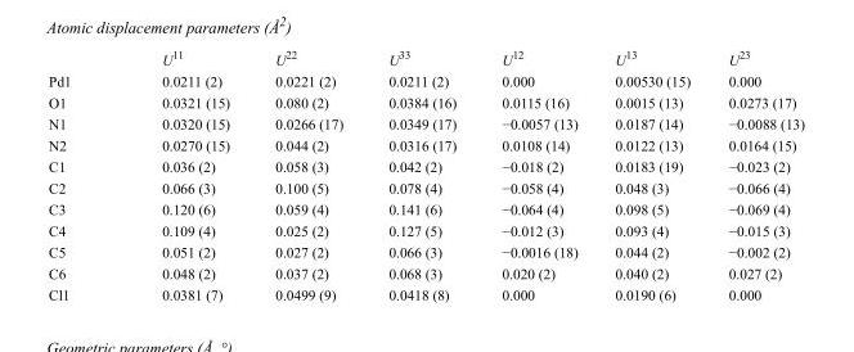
<table><thead><tr><td></td><td>U<sup>11</sup></td><td>U<sup>22</sup></td><td>U<sup>33</sup></td><td>U<sup>12</sup></td><td>U<sup>13</sup></td><td>U<sup>23</sup></td></tr></thead><tbody><tr><td>Pd1</td><td>0.0211 (2)</td><td>0.0221 (2)</td><td>0.0211 (2)</td><td>0.000</td><td>0.00530 (15)</td><td>0.000</td></tr><tr><td>O1</td><td>0.0321 (15)</td><td>0.080 (2)</td><td>0.0384 (16)</td><td>0.0115 (16)</td><td>0.0015 (13)</td><td>0.0273 (17)</td></tr><tr><td>N1</td><td>0.0320 (15)</td><td>0.0266 (17)</td><td>0.0349 (17)</td><td>−0.0057 (13)</td><td>0.0187 (14)</td><td>−0.0088 (13)</td></tr><tr><td>N2</td><td>0.0270 (15)</td><td>0.044 (2)</td><td>0.0316 (17)</td><td>0.0108 (14)</td><td>0.0122 (13)</td><td>0.0164 (15)</td></tr><tr><td>C1</td><td>0.036 (2)</td><td>0.058 (3)</td><td>0.042 (2)</td><td>−0.018 (2)</td><td>0.0183 (19)</td><td>−0.023 (2)</td></tr><tr><td>C2</td><td>0.066 (3)</td><td>0.100 (5)</td><td>0.078 (4)</td><td>−0.058 (4)</td><td>0.048 (3)</td><td>−0.066 (4)</td></tr><tr><td>C3</td><td>0.120 (6)</td><td>0.059 (4)</td><td>0.141 (6)</td><td>−0.064 (4)</td><td>0.098 (5)</td><td>−0.069 (4)</td></tr><tr><td>C4</td><td>0.109 (4)</td><td>0.025 (2)</td><td>0.127 (5)</td><td>−0.012 (3)</td><td>0.093 (4)</td><td>−0.015 (3)</td></tr><tr><td>C5</td><td>0.051 (2)</td><td>0.027 (2)</td><td>0.066 (3)</td><td>−0.0016 (18)</td><td>0.044 (2)</td><td>−0.002 (2)</td></tr><tr><td>C6</td><td>0.048 (2)</td><td>0.037 (2)</td><td>0.068 (3)</td><td>0.020 (2)</td><td>0.040 (2)</td><td>0.027 (2)</td></tr><tr><td>Cl1</td><td>0.0381 (7)</td><td>0.0499 (9)</td><td>0.0418 (8)</td><td>0.000</td><td>0.0190 (6)</td><td>0.000</td></tr></tbody></table>